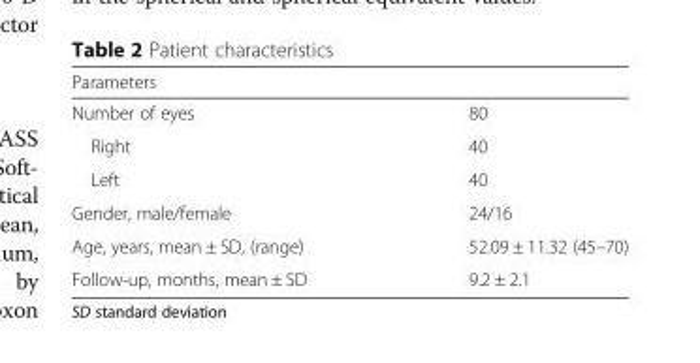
<table><thead><tr><td>Parameters</td><td></td></tr></thead><tbody><tr><td>Number of eyes</td><td>80</td></tr><tr><td>Right</td><td>40</td></tr><tr><td>Left</td><td>40</td></tr><tr><td>Gender, male/female</td><td>24/16</td></tr><tr><td>Age, years, mean ± SD, (range)</td><td>52.09 ± 11.32 (45–70)</td></tr><tr><td>Follow-up, months, mean ± SD</td><td>9.2 ± 2.1</td></tr></tbody></table>